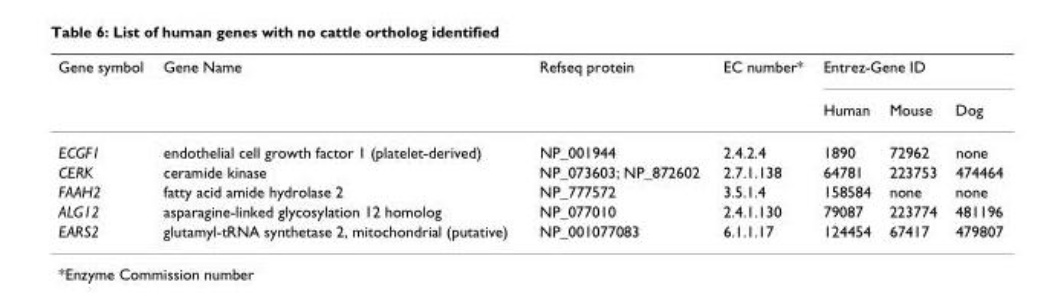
<table><thead><tr><td rowspan="2">Gene symbol</td><td rowspan="2">Gene Name</td><td rowspan="2">Refseq protein</td><td rowspan="2">EC number*</td><td colspan="3">Entrez-Gene ID</td></tr><tr><td>Human</td><td>Mouse</td><td>Dog</td></tr></thead><tbody><tr><td>ECGF1</td><td>endothelial cell growth factor 1 (platelet-derived)</td><td>NP_001944</td><td>2.4.2.4</td><td>1890</td><td>72962</td><td>none</td></tr><tr><td>CERK</td><td>ceramide kinase</td><td>NP_073603; NP_872602</td><td>2.7.1.138</td><td>64781</td><td>223753</td><td>474464</td></tr><tr><td>FAAH2</td><td>fatty acid amide hydrolase 2</td><td>NP_777572</td><td>3.5.1.4</td><td>158584</td><td>none</td><td>none</td></tr><tr><td>ALG12</td><td>asparagine-linked glycosylation 12 homolog</td><td>NP_077010</td><td>2.4.1.130</td><td>79087</td><td>223774</td><td>481196</td></tr><tr><td>EARS2</td><td>glutamyl-tRNA synthetase 2, mitochondrial (putative)</td><td>NP_001077083</td><td>6.1.1.17</td><td>124454</td><td>67417</td><td>479807</td></tr></tbody></table>